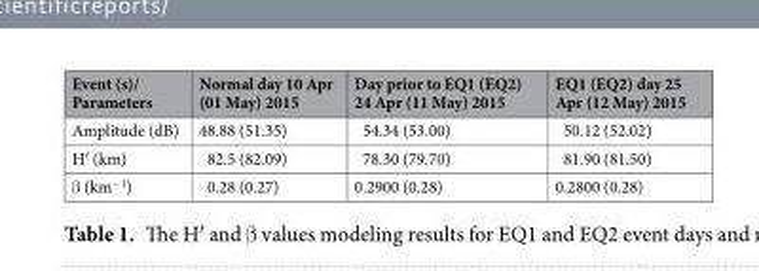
<table><thead><tr><td>Event (s)/ Parameters</td><td>Normal day 10 Apr (01 May) 2015</td><td>Day prior to EQ1 (EQ2) 24 Apr (11 May) 2015</td><td>EQ1 (EQ2) day 25 Apr (12 May) 2015</td></tr></thead><tbody><tr><td>Amplitude (dB)</td><td>48.88 (51.35)</td><td>54.34 (53.00)</td><td>50.12 (52.02)</td></tr><tr><td>H′ (km)</td><td>82.5 (82.09)</td><td>78.30 (79.70)</td><td>81.90 (81.50)</td></tr><tr><td>β (km<sup>−1</sup>)</td><td>0.28 (0.27)</td><td>0.2900 (0.28)</td><td>0.2800 (0.28)</td></tr></tbody></table>